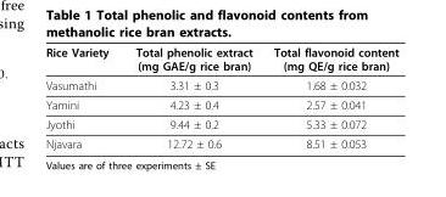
<table><thead><tr><td>Rice Variety</td><td>Total phenolic extract (mg GAE/g rice bran)</td><td>Total flavonoid content (mg QE/g rice bran)</td></tr></thead><tbody><tr><td>Vasumathi</td><td>3.31 ± 0.3</td><td>1.68 ± 0.032</td></tr><tr><td>Yamini</td><td>4.23 ± 0.4</td><td>2.57 ± 0.041</td></tr><tr><td>Jyothi</td><td>9.44 ± 0.2</td><td>5.33 ± 0.072</td></tr><tr><td>Njavara</td><td>12.72 ± 0.6</td><td>8.51 ± 0.053</td></tr></tbody></table>